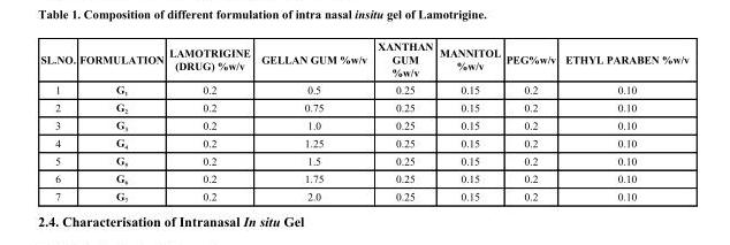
<table><thead><tr><td>SL.NO.</td><td>FORMULATION</td><td>LAMOTRIGINE (DRUG) %w/v</td><td>GELLAN GUM %w/v</td><td>XANTHAN GUM %w/v</td><td>MANNITOL %w/v</td><td>PEG%w/v</td><td>ETHYL PARABEN %w/v</td></tr></thead><tbody><tr><td>1</td><td>G<sub>1</sub></td><td>0.2</td><td>0.5</td><td>0.25</td><td>0.15</td><td>0.2</td><td>0.10</td></tr><tr><td>2</td><td>G<sub>2</sub></td><td>0.2</td><td>0.75</td><td>0.25</td><td>0.15</td><td>0.2</td><td>0.10</td></tr><tr><td>3</td><td>G<sub>3</sub></td><td>0.2</td><td>1.0</td><td>0.25</td><td>0.15</td><td>0.2</td><td>0.10</td></tr><tr><td>4</td><td>G<sub>4</sub></td><td>0.2</td><td>1.25</td><td>0.25</td><td>0.15</td><td>0.2</td><td>0.10</td></tr><tr><td>5</td><td>G<sub>5</sub></td><td>0.2</td><td>1.5</td><td>0.25</td><td>0.15</td><td>0.2</td><td>0.10</td></tr><tr><td>6</td><td>G<sub>6</sub></td><td>0.2</td><td>1.75</td><td>0.25</td><td>0.15</td><td>0.2</td><td>0.10</td></tr><tr><td>7</td><td>G<sub>7</sub></td><td>0.2</td><td>2.0</td><td>0.25</td><td>0.15</td><td>0.2</td><td>0.10</td></tr></tbody></table>